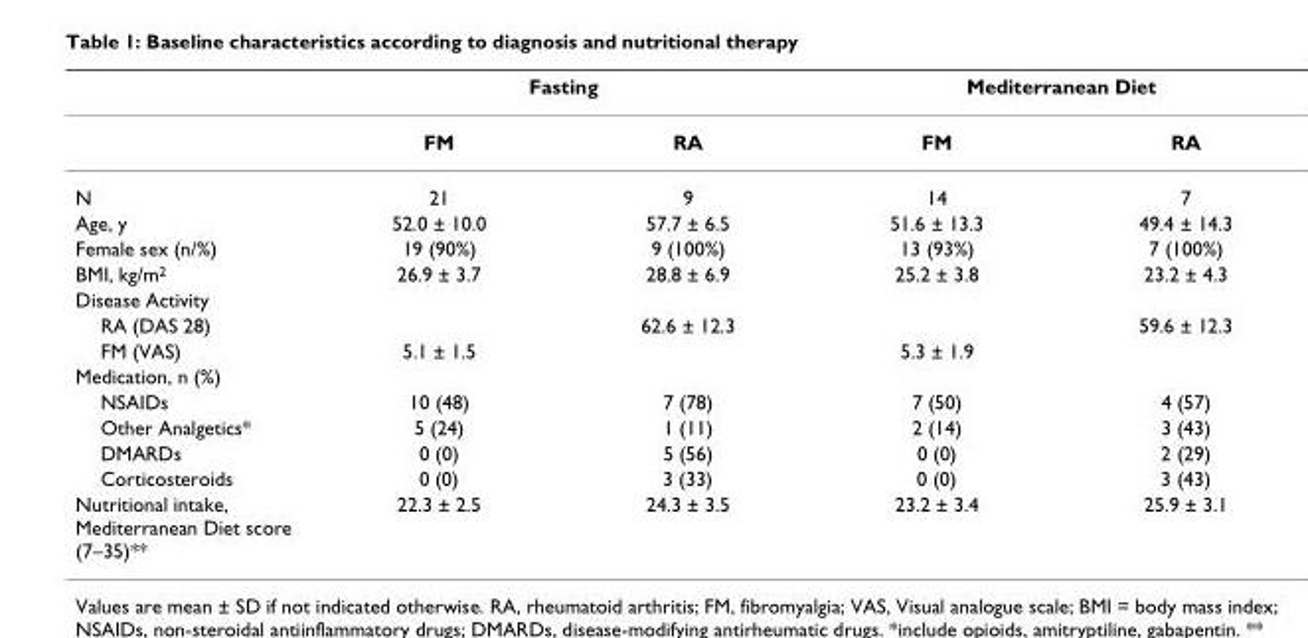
<table><thead><tr><td rowspan="2"></td><td colspan="2">Fasting</td><td colspan="2">Mediterranean Diet</td></tr><tr><td>FM</td><td>RA</td><td>FM</td><td>RA</td></tr></thead><tbody><tr><td>N</td><td>21</td><td>9</td><td>14</td><td>7</td></tr><tr><td>Age, y</td><td>52.0 ± 10.0</td><td>57.7 ± 6.5</td><td>51.6 ± 13.3</td><td>49.4 ± 14.3</td></tr><tr><td>Female sex (n/%)</td><td>19 (90%)</td><td>9 (100%)</td><td>13 (93%)</td><td>7 (100%)</td></tr><tr><td>BMI, kg/m<sup>2</sup></td><td>26.9 ± 3.7</td><td>28.8 ± 6.9</td><td>25.2 ± 3.8</td><td>23.2 ± 4.3</td></tr><tr><td colspan="5">Disease Activity</td></tr><tr><td>RA (DAS 28)</td><td></td><td>62.6 ± 12.3</td><td></td><td>59.6 ± 12.3</td></tr><tr><td>FM (VAS)</td><td>5.1 ± 1.5</td><td></td><td>5.3 ± 1.9</td><td></td></tr><tr><td colspan="5">Medication, n (%)</td></tr><tr><td>NSAIDs</td><td>10 (48)</td><td>7 (78)</td><td>7 (50)</td><td>4 (57)</td></tr><tr><td>Other Analgetics*</td><td>5 (24)</td><td>1 (11)</td><td>2 (14)</td><td>3 (43)</td></tr><tr><td>DMARDs</td><td>0 (0)</td><td>5 (56)</td><td>0 (0)</td><td>2 (29)</td></tr><tr><td>Corticosteroids</td><td>0 (0)</td><td>3 (33)</td><td>0 (0)</td><td>3 (43)</td></tr><tr><td>Nutritional intake, Mediterranean Diet score (7–35)**</td><td>22.3 ± 2.5</td><td>24.3 ± 3.5</td><td>23.2 ± 3.4</td><td>25.9 ± 3.1</td></tr></tbody></table>